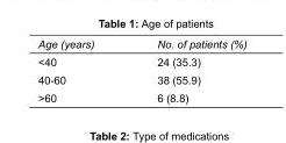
<table><tbody><tr><td>Age (years)</td><td>No. of patients (%)</td></tr><tr><td>&lt;40</td><td>24 (35.3)</td></tr><tr><td>40-60</td><td>38 (55.9)</td></tr><tr><td>&gt;60</td><td>6 (8.8)</td></tr></tbody></table>